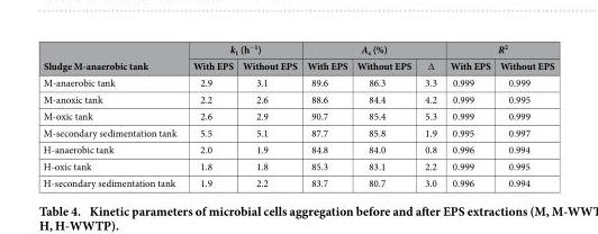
<table><thead><tr><td rowspan="2">Sludge M-anaerobic tank</td><td colspan="2">k<sub>1</sub> (h<sup>−1</sup>)</td><td colspan="3">A<sub>e</sub> (%)</td><td colspan="2">R<sup>2</sup></td></tr><tr><td>With EPS</td><td>Without EPS</td><td>With EPS</td><td>Without EPS</td><td>∆</td><td>With EPS</td><td>Without EPS</td></tr></thead><tbody><tr><td>M-anaerobic tank</td><td>2.9</td><td>3.1</td><td>89.6</td><td>86.3</td><td>3.3</td><td>0.999</td><td>0.999</td></tr><tr><td>M-anoxic tank</td><td>2.2</td><td>2.6</td><td>88.6</td><td>84.4</td><td>4.2</td><td>0.999</td><td>0.995</td></tr><tr><td>M-oxic tank</td><td>2.6</td><td>2.9</td><td>90.7</td><td>85.4</td><td>5.3</td><td>0.999</td><td>0.999</td></tr><tr><td>M-secondary sedimentation tank</td><td>5.5</td><td>5.1</td><td>87.7</td><td>85.8</td><td>1.9</td><td>0.995</td><td>0.997</td></tr><tr><td>H-anaerobic tank</td><td>2.0</td><td>1.9</td><td>84.8</td><td>84.0</td><td>0.8</td><td>0.996</td><td>0.994</td></tr><tr><td>H-oxic tank</td><td>1.8</td><td>1.8</td><td>85.3</td><td>83.1</td><td>2.2</td><td>0.999</td><td>0.995</td></tr><tr><td>H-secondary sedimentation tank</td><td>1.9</td><td>2.2</td><td>83.7</td><td>80.7</td><td>3.0</td><td>0.996</td><td>0.994</td></tr></tbody></table>